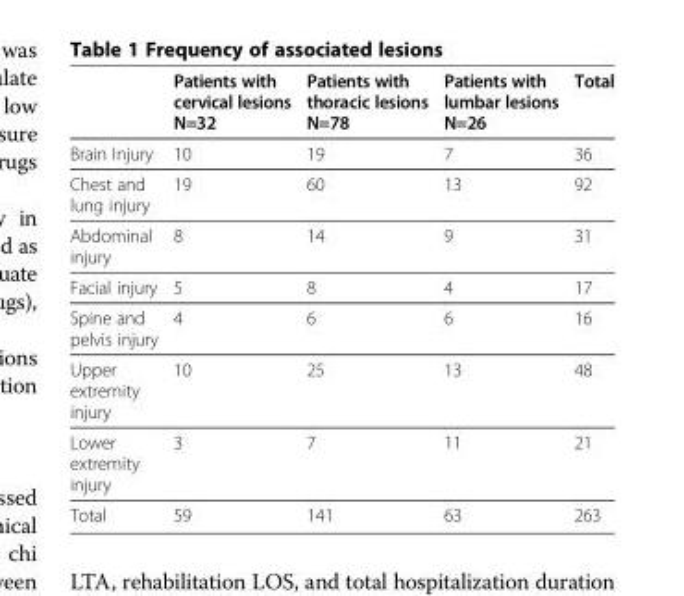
<table><thead><tr><td></td><td>Patients with cervical lesions N=32</td><td>Patients with thoracic lesions N=78</td><td>Patients with lumbar lesions N=26</td><td>Total</td></tr></thead><tbody><tr><td>Brain Injury</td><td>10</td><td>19</td><td>7</td><td>36</td></tr><tr><td>Chest and lung injury</td><td>19</td><td>60</td><td>13</td><td>92</td></tr><tr><td>Abdominal injury</td><td>8</td><td>14</td><td>9</td><td>31</td></tr><tr><td>Facial injury</td><td>5</td><td>8</td><td>4</td><td>17</td></tr><tr><td>Spine and pelvis injury</td><td>4</td><td>6</td><td>6</td><td>16</td></tr><tr><td>Upper extremity injury</td><td>10</td><td>25</td><td>13</td><td>48</td></tr><tr><td>Lower extremity injury</td><td>3</td><td>7</td><td>11</td><td>21</td></tr><tr><td>Total</td><td>59</td><td>141</td><td>63</td><td>263</td></tr></tbody></table>